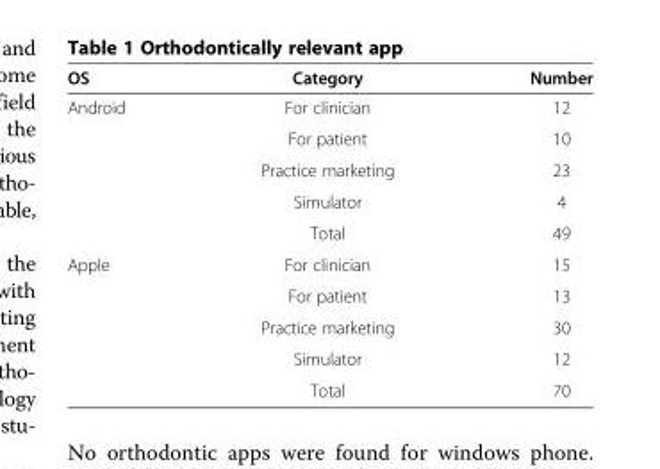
<table><thead><tr><td>OS</td><td>Category</td><td>Number</td></tr></thead><tbody><tr><td rowspan="5">Android</td><td>For clinician</td><td>12</td></tr><tr><td>For patient</td><td>10</td></tr><tr><td>Practice marketing</td><td>23</td></tr><tr><td>Simulator</td><td>4</td></tr><tr><td>Total</td><td>49</td></tr><tr><td rowspan="5">Apple</td><td>For clinician</td><td>15</td></tr><tr><td>For patient</td><td>13</td></tr><tr><td>Practice marketing</td><td>30</td></tr><tr><td>Simulator</td><td>12</td></tr><tr><td>Total</td><td>70</td></tr></tbody></table>